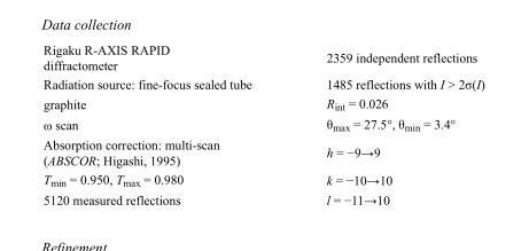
<table><tbody><tr><td>Rigaku R-AXIS RAPID diffractometer</td><td>2359 independent reflections</td></tr><tr><td>Radiation source: fine-focus sealed tube</td><td>1485 reflections with I &gt; 2σ(I)</td></tr><tr><td>graphite</td><td>R<sub>int</sub> = 0.026</td></tr><tr><td>ω scan</td><td>θ<sub>max</sub> = 27.5°, θ<sub>min</sub> = 3.4°</td></tr><tr><td>Absorption correction: multi-scan (ABSCOR; Higashi, 1995)</td><td>h = −9→9</td></tr><tr><td>T<sub>min</sub> = 0.950, T<sub>max</sub> = 0.980</td><td>k = −10→10</td></tr><tr><td>5120 measured reflections</td><td>l = −11→10</td></tr></tbody></table>